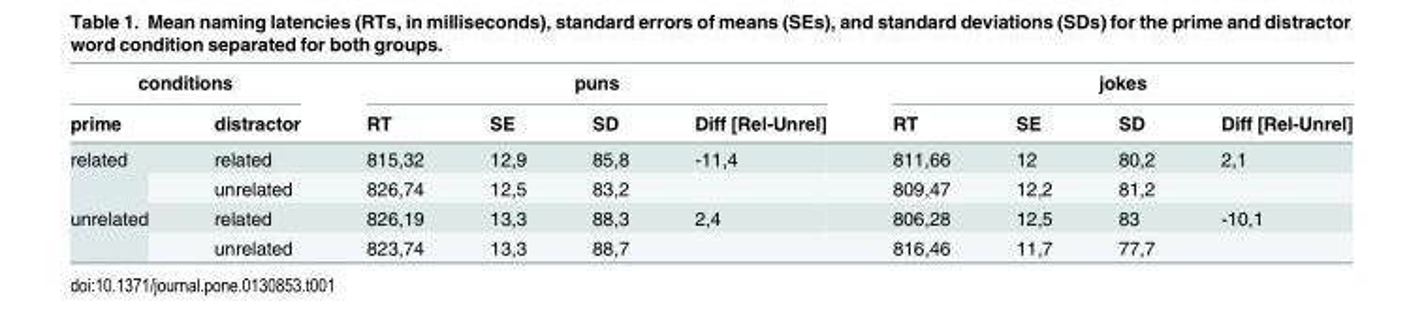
<table><thead><tr><td colspan="2">conditions</td><td colspan="4">puns</td><td colspan="4">jokes</td></tr><tr><td>prime</td><td>distractor</td><td>RT</td><td>SE</td><td>SD</td><td>Diff [Rel-Unrel]</td><td>RT</td><td>SE</td><td>SD</td><td>Diff [Rel-Unrel]</td></tr></thead><tbody><tr><td rowspan="2">related</td><td>related</td><td>815,32</td><td>12,9</td><td>85,8</td><td>-11,4</td><td>811,66</td><td>12</td><td>80,2</td><td>2,1</td></tr><tr><td>unrelated</td><td>826,74</td><td>12,5</td><td>83,2</td><td></td><td>809,47</td><td>12,2</td><td>81,2</td><td></td></tr><tr><td rowspan="2">unrelated</td><td>related</td><td>826,19</td><td>13,3</td><td>88,3</td><td>2,4</td><td>806,28</td><td>12,5</td><td>83</td><td>-10,1</td></tr><tr><td>unrelated</td><td>823,74</td><td>13,3</td><td>88,7</td><td></td><td>816,46</td><td>11,7</td><td>77,7</td><td></td></tr></tbody></table>